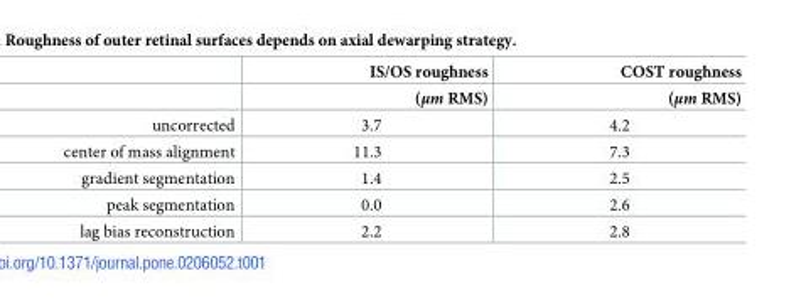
<table><thead><tr><td rowspan="2"></td><td rowspan="2">IS/OS roughness (μm RMS)</td><td rowspan="2">COST roughness (μm RMS)</td></tr><tr></tr></thead><tbody><tr><td>uncorrected</td><td>3.7</td><td>4.2</td></tr><tr><td>center of mass alignment</td><td>11.3</td><td>7.3</td></tr><tr><td>gradient segmentation</td><td>1.4</td><td>2.5</td></tr><tr><td>peak segmentation</td><td>0.0</td><td>2.6</td></tr><tr><td>lag bias reconstruction</td><td>2.2</td><td>2.8</td></tr></tbody></table>